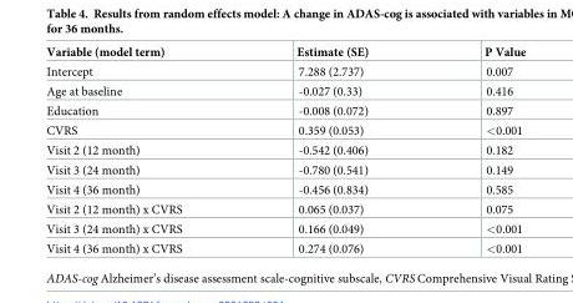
<table><thead><tr><td>Variable (model term)</td><td>Estimate (SE)</td><td>P Value</td></tr></thead><tbody><tr><td>Intercept</td><td>7.288 (2.737)</td><td>0.007</td></tr><tr><td>Age at baseline</td><td>-0.027 (0.33)</td><td>0.416</td></tr><tr><td>Education</td><td>-0.008 (0.072)</td><td>0.897</td></tr><tr><td>CVRS</td><td>0.359 (0.053)</td><td>&lt;0.001</td></tr><tr><td>Visit 2 (12 month)</td><td>-0.542 (0.406)</td><td>0.182</td></tr><tr><td>Visit 3 (24 month)</td><td>-0.780 (0.541)</td><td>0.149</td></tr><tr><td>Visit 4 (36 month)</td><td>-0.456 (0.834)</td><td>0.585</td></tr><tr><td>Visit 2 (12 month) x CVRS</td><td>0.065 (0.037)</td><td>0.075</td></tr><tr><td>Visit 3 (24 month) x CVRS</td><td>0.166 (0.049)</td><td>&lt;0.001</td></tr><tr><td>Visit 4 (36 month) x CVRS</td><td>0.274 (0.076)</td><td>&lt;0.001</td></tr></tbody></table>